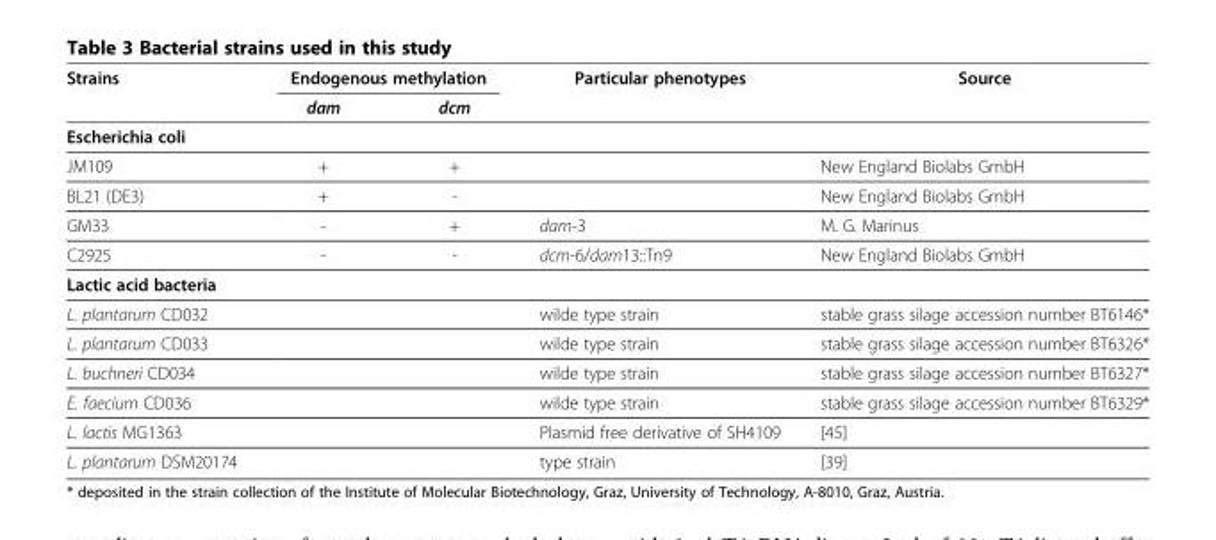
<table><thead><tr><td rowspan="2">Strains</td><td colspan="2">Endogenous methylation</td><td rowspan="2">Particular phenotypes</td><td rowspan="2">Source</td></tr><tr><td>dam</td><td>dcm</td></tr></thead><tbody><tr><td colspan="5">Escherichia coli</td></tr><tr><td>JM109</td><td>+</td><td>+</td><td></td><td>New England Biolabs GmbH</td></tr><tr><td>BL21 (DE3)</td><td>+</td><td>-</td><td></td><td>New England Biolabs GmbH</td></tr><tr><td>GM33</td><td>-</td><td>+</td><td>dam-3</td><td>M. G. Marinus</td></tr><tr><td>C2925</td><td>-</td><td>-</td><td>dcm-6/dam13::Tn9</td><td>New England Biolabs GmbH</td></tr><tr><td colspan="5">Lactic acid bacteria</td></tr><tr><td>L. plantarum CD032</td><td></td><td></td><td>wilde type strain</td><td>stable grass silage accession number BT6146*</td></tr><tr><td>L. plantarum CD033</td><td></td><td></td><td>wilde type strain</td><td>stable grass silage accession number BT6326*</td></tr><tr><td>L. buchneri CD034</td><td></td><td></td><td>wilde type strain</td><td>stable grass silage accession number BT6327*</td></tr><tr><td>E. faecium CD036</td><td></td><td></td><td>wilde type strain</td><td>stable grass silage accession number BT6329*</td></tr><tr><td>L. lactis MG1363</td><td></td><td></td><td>Plasmid free derivative of SH4109</td><td>[45]</td></tr><tr><td>L. plantarum DSM20174</td><td></td><td></td><td>type strain</td><td>[39]</td></tr></tbody></table>